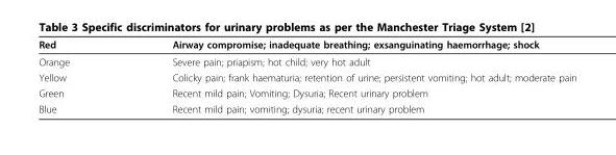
<table><thead><tr><td>Red</td><td>Airway compromise; inadequate breathing; exsanguinating haemorrhage; shock</td></tr></thead><tbody><tr><td>Orange</td><td>Severe pain; priapism; hot child; very hot adult</td></tr><tr><td>Yellow</td><td>Colicky pain; frank haematuria; retention of urine; persistent vomiting; hot adult; moderate pain</td></tr><tr><td>Green</td><td>Recent mild pain; Vomiting; Dysuria; Recent urinary problem</td></tr><tr><td>Blue</td><td>Recent mild pain; vomiting; dysuria; recent urinary problem</td></tr></tbody></table>